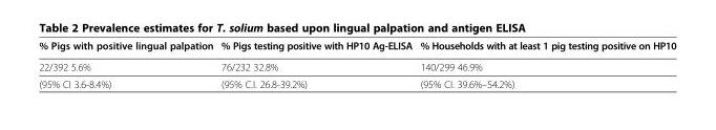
<table><thead><tr><td>% Pigs with positive lingual palpation</td><td>% Pigs testing positive with HP10 Ag-ELISA</td><td>% Households with at least 1 pig testing positive on HP10</td></tr></thead><tbody><tr><td>22/392 5.6%</td><td>76/232 32.8%</td><td>140/299 46.9%</td></tr><tr><td>(95% CI 3.6-8.4%)</td><td>(95% C.I. 26.8-39.2%)</td><td>(95% CI. 39.6%–54.2%)</td></tr></tbody></table>